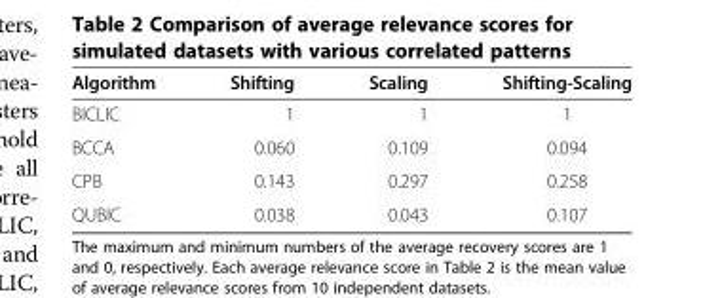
<table><thead><tr><td>Algorithm</td><td>Shifting</td><td>Scaling</td><td>Shifting-Scaling</td></tr></thead><tbody><tr><td>BICLIC</td><td>1</td><td>1</td><td>1</td></tr><tr><td>BCCA</td><td>0.060</td><td>0.109</td><td>0.094</td></tr><tr><td>CPB</td><td>0.143</td><td>0.297</td><td>0.258</td></tr><tr><td>QUBIC</td><td>0.038</td><td>0.043</td><td>0.107</td></tr></tbody></table>